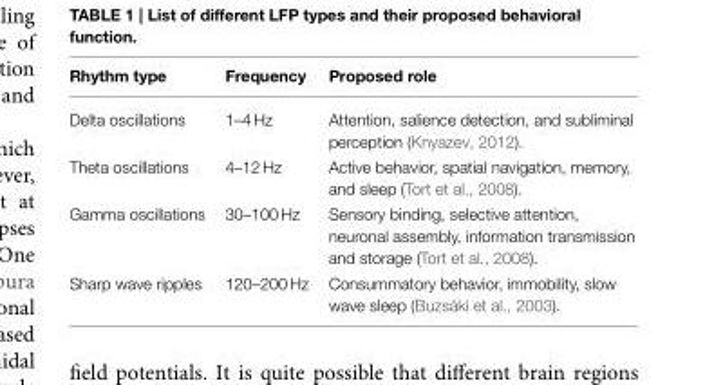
<table><thead><tr><td>Rhythm type</td><td>Frequency</td><td>Proposed role</td></tr></thead><tbody><tr><td>Delta oscillations</td><td>1–4 Hz</td><td>Attention, salience detection, and subliminal perception (Knyazev, 2012).</td></tr><tr><td>Theta oscillations</td><td>4–12 Hz</td><td>Active behavior, spatial navigation, memory, and sleep (Tort et al., 2008).</td></tr><tr><td>Gamma oscillations</td><td>30–100 Hz</td><td>Sensory binding, selective attention, neuronal assembly, information transmission and storage (Tort et al., 2008).</td></tr><tr><td>Sharp wave ripples</td><td>120–200 Hz</td><td>Consummatory behavior, immobility, slow wave sleep (Buzsáki et al., 2003).</td></tr></tbody></table>